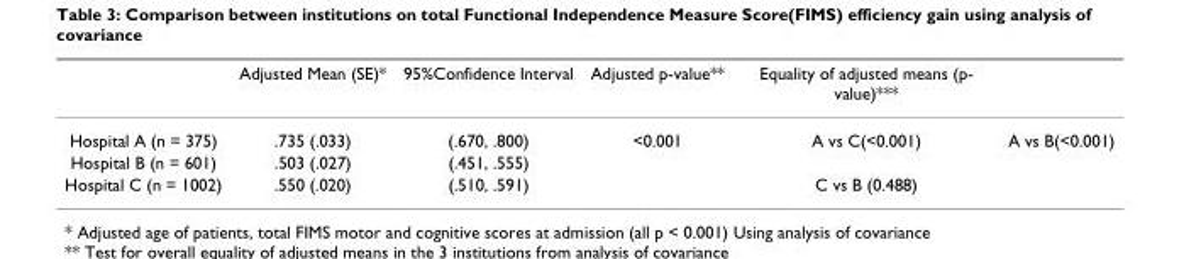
<table><thead><tr><td></td><td>Adjusted Mean (SE)*</td><td>95%Confidence Interval</td><td>Adjusted p-value**</td><td>Equality of adjusted means (p- value)***</td><td></td></tr></thead><tbody><tr><td>Hospital A (n = 375)</td><td>.735 (.033)</td><td>(.670, .800)</td><td>&lt;0.001</td><td>A vs C(&lt;0.001)</td><td>A vs B(&lt;0.001)</td></tr><tr><td>Hospital B (n = 601)</td><td>.503 (.027)</td><td>(.451, .555)</td><td></td><td></td><td></td></tr><tr><td>Hospital C (n = 1002)</td><td>.550 (.020)</td><td>(.510, .591)</td><td></td><td>C vs B (0.488)</td><td></td></tr></tbody></table>